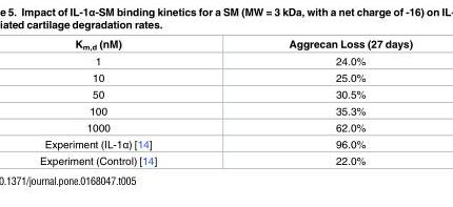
<table><thead><tr><td>K<sub>m,d</sub> (nM)</td><td>Aggrecan Loss (27 days)</td></tr></thead><tbody><tr><td>1</td><td>24.0%</td></tr><tr><td>10</td><td>25.0%</td></tr><tr><td>50</td><td>30.5%</td></tr><tr><td>100</td><td>35.3%</td></tr><tr><td>1000</td><td>62.0%</td></tr><tr><td>Experiment (IL-1α) [14]</td><td>96.0%</td></tr><tr><td>Experiment (Control) [14]</td><td>22.0%</td></tr></tbody></table>